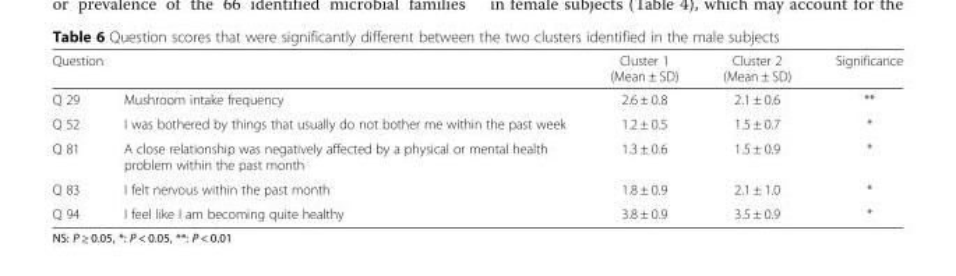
<table><thead><tr><td colspan="2">Question</td><td rowspan="2">Cluster 1 (Mean ± SD) 2.6 ± 0.8</td><td rowspan="2">Cluster 2 (Mean ± SD) 2.1 ± 0.6</td><td rowspan="2">Significance **</td></tr><tr><td>Q 29</td><td>Mushroom intake frequency</td></tr></thead><tbody><tr><td>Q 52</td><td>I was bothered by things that usually do not bother me within the past week</td><td>1.2 ± 0.5</td><td>1.5 ± 0.7</td><td>*</td></tr><tr><td>Q 81</td><td>A close relationship was negatively affected by a physical or mental health problem within the past month</td><td>1.3 ± 0.6</td><td>1.5 ± 0.9</td><td>*</td></tr><tr><td>Q 83</td><td>I felt nervous within the past month</td><td>1.8 ± 0.9</td><td>2.1 ± 1.0</td><td>*</td></tr><tr><td>Q 94</td><td>I feel like I am becoming quite healthy</td><td>3.8 ± 0.9</td><td>3.5 ± 0.9</td><td>*</td></tr></tbody></table>